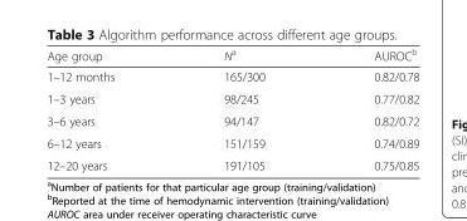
<table><thead><tr><td>Age group</td><td>N<sup>a</sup></td><td>AUROC<sup>b</sup></td></tr></thead><tbody><tr><td>1–12 months</td><td>165/300</td><td>0.82/0.78</td></tr><tr><td>1–3 years</td><td>98/245</td><td>0.77/0.82</td></tr><tr><td>3–6 years</td><td>94/147</td><td>0.82/0.72</td></tr><tr><td>6–12 years</td><td>151/159</td><td>0.74/0.89</td></tr><tr><td>12–20 years</td><td>191/105</td><td>0.75/0.85</td></tr></tbody></table>